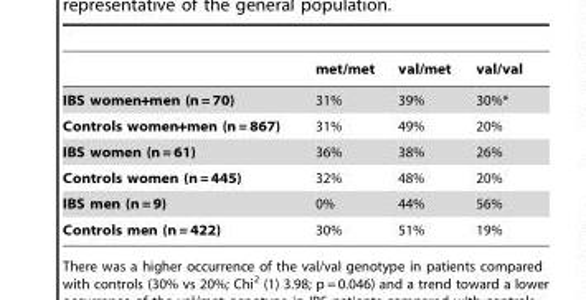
<table><thead><tr><td></td><td>met/met</td><td>val/met</td><td>val/val</td></tr></thead><tbody><tr><td>IBS women+men (n = 70)</td><td>31%</td><td>39%</td><td>30%*</td></tr><tr><td>Controls women+men (n = 867)</td><td>31%</td><td>49%</td><td>20%</td></tr><tr><td>IBS women (n = 61)</td><td>36%</td><td>38%</td><td>26%</td></tr><tr><td>Controls women (n = 445)</td><td>32%</td><td>48%</td><td>20%</td></tr><tr><td>IBS men (n = 9)</td><td>0%</td><td>44%</td><td>56%</td></tr><tr><td>Controls men (n = 422)</td><td>30%</td><td>51%</td><td>19%</td></tr></tbody></table>